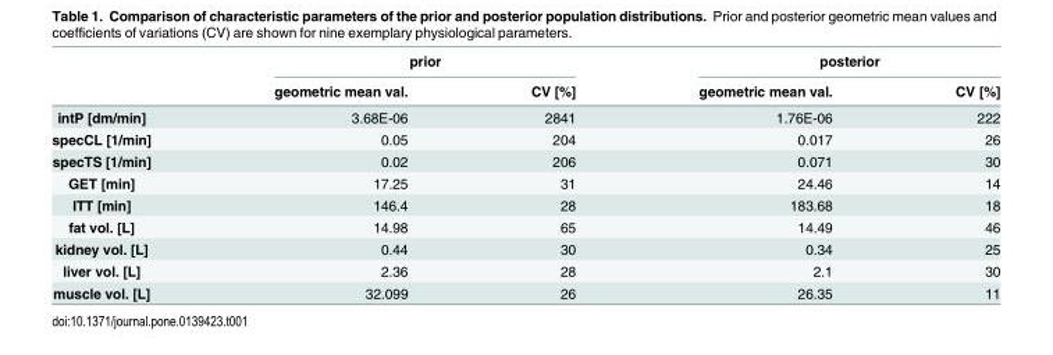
<table><thead><tr><td rowspan="2"></td><td colspan="2">prior</td><td colspan="2">posterior</td></tr><tr><td>geometric mean val.</td><td>CV [%]</td><td>geometric mean val.</td><td>CV [%]</td></tr></thead><tbody><tr><td>intP [dm/min]</td><td>3.68E-06</td><td>2841</td><td>1.76E-06</td><td>222</td></tr><tr><td>specCL [1/min]</td><td>0.05</td><td>204</td><td>0.017</td><td>26</td></tr><tr><td>specTS [1/min]</td><td>0.02</td><td>206</td><td>0.071</td><td>30</td></tr><tr><td>GET [min]</td><td>17.25</td><td>31</td><td>24.46</td><td>14</td></tr><tr><td>ITT [min]</td><td>146.4</td><td>28</td><td>183.68</td><td>18</td></tr><tr><td>fat vol. [L]</td><td>14.98</td><td>65</td><td>14.49</td><td>46</td></tr><tr><td>kidney vol. [L]</td><td>0.44</td><td>30</td><td>0.34</td><td>25</td></tr><tr><td>liver vol. [L]</td><td>2.36</td><td>28</td><td>2.1</td><td>30</td></tr><tr><td>muscle vol. [L]</td><td>32.099</td><td>26</td><td>26.35</td><td>11</td></tr></tbody></table>